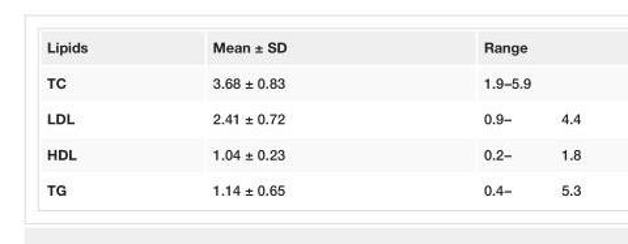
<table><tbody><tr><td>Lipids</td><td>Mean ± SD</td><td>Range</td></tr><tr><td>TC</td><td>3.68 ± 0.83</td><td>1.9–5.9</td></tr><tr><td>LDL</td><td>2.41 ± 0.72</td><td>0.9–4.4</td></tr><tr><td>HDL</td><td>1.04 ± 0.23</td><td>0.2–1.8</td></tr><tr><td>TG</td><td>1.14 ± 0.65</td><td>0.4–5.3</td></tr></tbody></table>